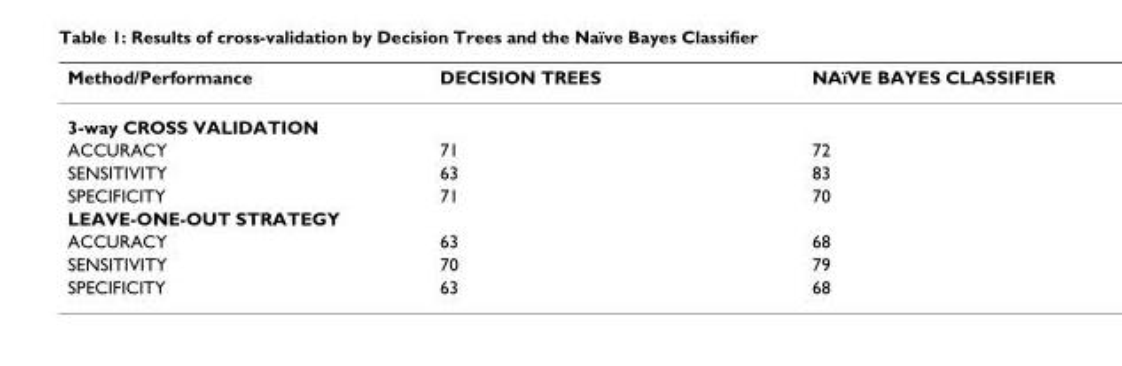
<table><thead><tr><td>Method/Performance</td><td>DECISION TREES</td><td>NAïVE BAYES CLASSIFIER</td></tr></thead><tbody><tr><td colspan="3">3-way CROSS VALIDATION</td></tr><tr><td>ACCURACY</td><td>71</td><td>72</td></tr><tr><td>SENSITIVITY</td><td>63</td><td>83</td></tr><tr><td>SPECIFICITY</td><td>71</td><td>70</td></tr><tr><td colspan="3">LEAVE-ONE-OUT STRATEGY</td></tr><tr><td>ACCURACY</td><td>63</td><td>68</td></tr><tr><td>SENSITIVITY</td><td>70</td><td>79</td></tr><tr><td>SPECIFICITY</td><td>63</td><td>68</td></tr></tbody></table>